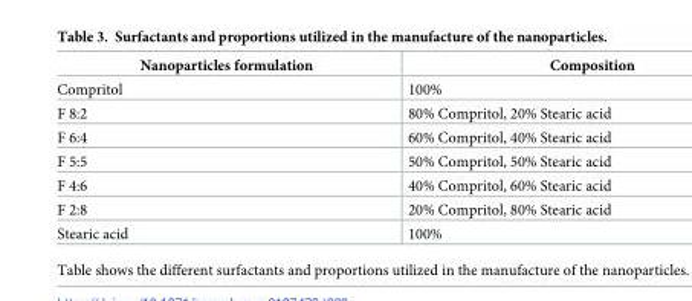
<table><thead><tr><td>Nanoparticles formulation</td><td>Composition</td></tr></thead><tbody><tr><td>Compritol</td><td>100%</td></tr><tr><td>F 8:2</td><td>80% Compritol, 20% Stearic acid</td></tr><tr><td>F 6:4</td><td>60% Compritol, 40% Stearic acid</td></tr><tr><td>F 5:5</td><td>50% Compritol, 50% Stearic acid</td></tr><tr><td>F 4:6</td><td>40% Compritol, 60% Stearic acid</td></tr><tr><td>F 2:8</td><td>20% Compritol, 80% Stearic acid</td></tr><tr><td>Stearic acid</td><td>100%</td></tr></tbody></table>